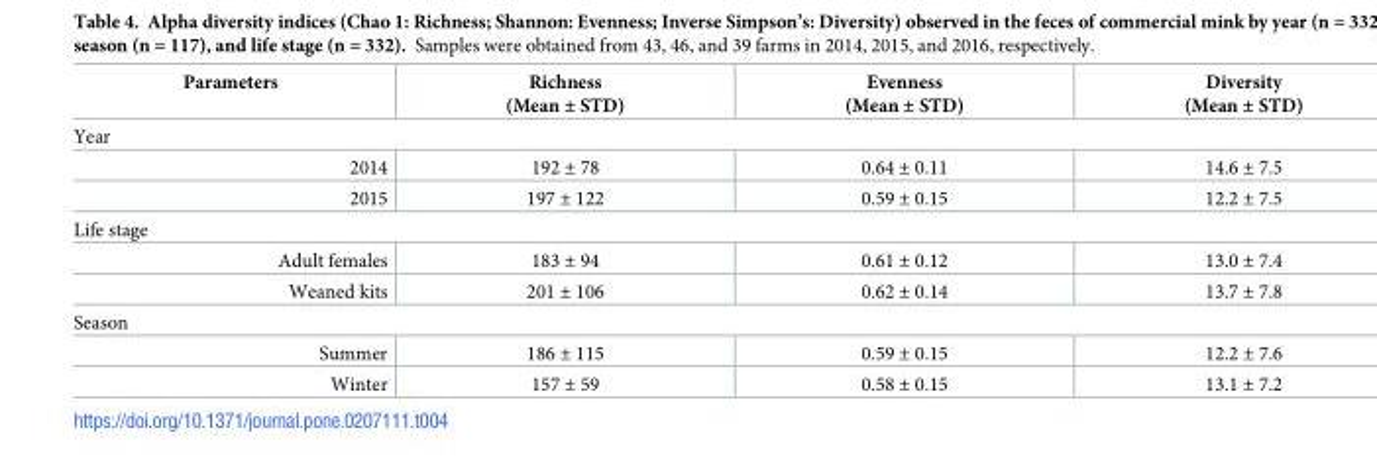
<table><thead><tr><td>Parameters</td><td>Richness (Mean ± STD)</td><td>Evenness (Mean ± STD)</td><td>Diversity (Mean ± STD)</td></tr></thead><tbody><tr><td colspan="4">Year</td></tr><tr><td>2014</td><td>192 ± 78</td><td>0.64 ± 0.11</td><td>14.6 ± 7.5</td></tr><tr><td>2015</td><td>197 ± 122</td><td>0.59 ± 0.15</td><td>12.2 ± 7.5</td></tr><tr><td colspan="4">Life stage</td></tr><tr><td>Adult females</td><td>183 ± 94</td><td>0.61 ± 0.12</td><td>13.0 ± 7.4</td></tr><tr><td>Weaned kits</td><td>201 ± 106</td><td>0.62 ± 0.14</td><td>13.7 ± 7.8</td></tr><tr><td colspan="4">Season</td></tr><tr><td>Summer</td><td>186 ± 115</td><td>0.59 ± 0.15</td><td>12.2 ± 7.6</td></tr><tr><td>Winter</td><td>157 ± 59</td><td>0.58 ± 0.15</td><td>13.1 ± 7.2</td></tr></tbody></table>